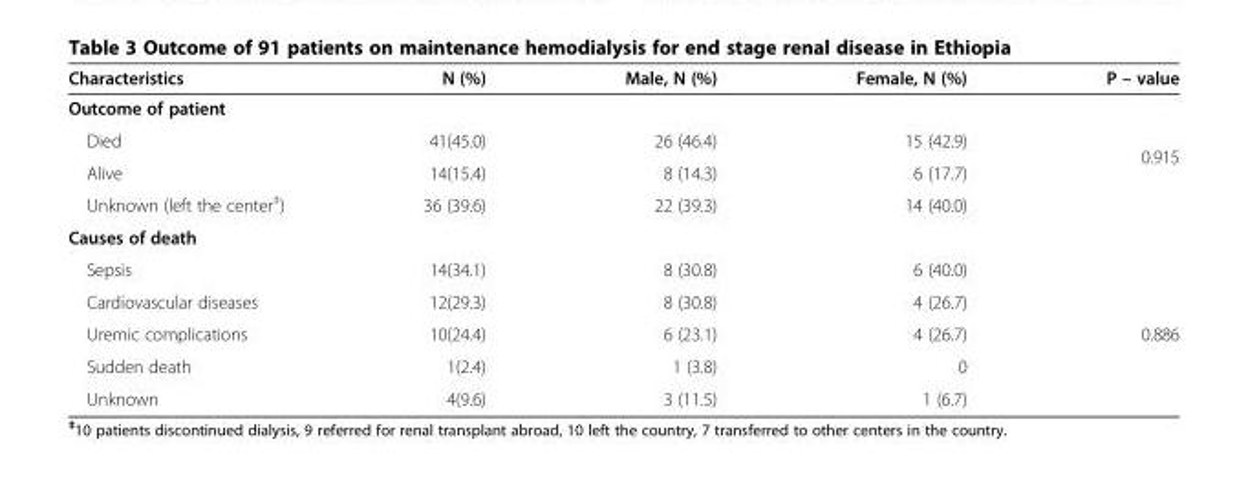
<table><thead><tr><td>Characteristics</td><td>N (%)</td><td>Male, N (%)</td><td>Female, N (%)</td><td>P – value</td></tr></thead><tbody><tr><td colspan="4">Outcome of patient</td><td rowspan="4">0.915</td></tr><tr><td>Died</td><td>41(45.0)</td><td>26 (46.4)</td><td>15 (42.9)</td></tr><tr><td>Alive</td><td>14(15.4)</td><td>8 (14.3)</td><td>6 (17.7)</td></tr><tr><td>Unknown (left the center<sup>‡</sup>)</td><td>36 (39.6)</td><td>22 (39.3)</td><td>14 (40.0)</td></tr><tr><td colspan="5">Causes of death</td></tr><tr><td>Sepsis</td><td>14(34.1)</td><td>8 (30.8)</td><td>6 (40.0)</td><td rowspan="4">0.886</td></tr><tr><td>Cardiovascular diseases</td><td>12(29.3)</td><td>8 (30.8)</td><td>4 (26.7)</td></tr><tr><td>Uremic complications</td><td>10(24.4)</td><td>6 (23.1)</td><td>4 (26.7)</td></tr><tr><td>Sudden death</td><td>1(2.4)</td><td>1 (3.8)</td><td>0</td></tr><tr><td>Unknown</td><td>4(9.6)</td><td>3 (11.5)</td><td>1 (6.7)</td><td></td></tr></tbody></table>